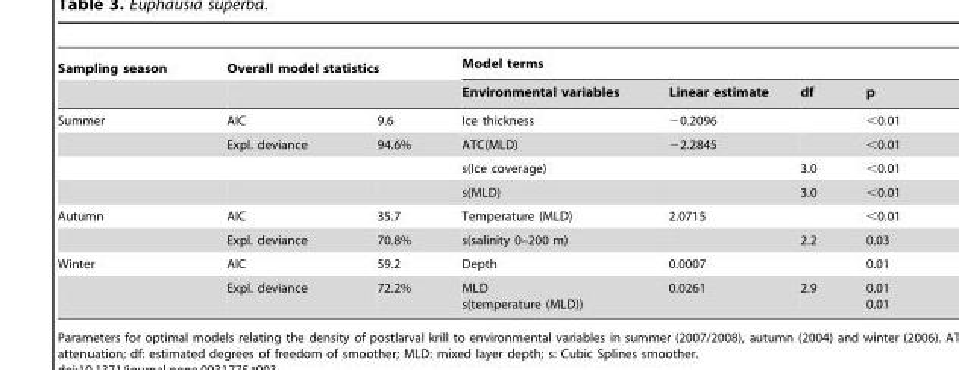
<table><thead><tr><td rowspan="2">Sampling season</td><td colspan="2">Overall model statistics</td><td colspan="4">Model terms</td></tr><tr><td></td><td></td><td>Environmental variables</td><td>Linear estimate</td><td>df</td><td>p</td></tr></thead><tbody><tr><td rowspan="4">Summer</td><td>AIC</td><td>9.6</td><td>Ice thickness</td><td>−0.2096</td><td></td><td>&lt;0.01</td></tr><tr><td>Expl. deviance</td><td>94.6%</td><td>ATC(MLD)</td><td>−2.2845</td><td></td><td>&lt;0.01</td></tr><tr><td></td><td></td><td>s(Ice coverage)</td><td></td><td>3.0</td><td>&lt;0.01</td></tr><tr><td></td><td></td><td>s(MLD)</td><td></td><td>3.0</td><td>&lt;0.01</td></tr><tr><td rowspan="2">Autumn</td><td>AIC</td><td>35.7</td><td>Temperature (MLD)</td><td>2.0715</td><td></td><td>&lt;0.01</td></tr><tr><td>Expl. deviance</td><td>70.8%</td><td>s(salinity 0–200 m)</td><td></td><td>2.2</td><td>0.03</td></tr><tr><td rowspan="2">Winter</td><td>AIC</td><td>59.2</td><td>Depth</td><td>0.0007</td><td></td><td>0.01</td></tr><tr><td>Expl. deviance</td><td>72.2%</td><td>MLD s(temperature (MLD))</td><td>0.0261</td><td>2.9</td><td>0.01 0.01</td></tr></tbody></table>